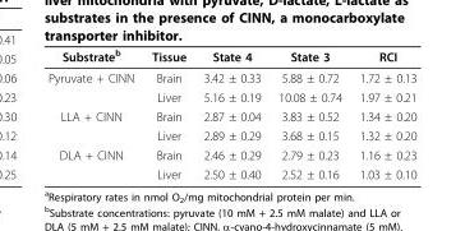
<table><thead><tr><td>Substrate<sup>b</sup></td><td>Tissue</td><td>State 4</td><td>State 3</td><td>RCI</td></tr></thead><tbody><tr><td rowspan="2">Pyruvate + CINN</td><td>Brain</td><td>3.42 ± 0.33</td><td>5.88 ± 0.72</td><td>1.72 ± 0.13</td></tr><tr><td>Liver</td><td>5.16 ± 0.19</td><td>10.08 ± 0.74</td><td>1.97 ± 0.21</td></tr><tr><td rowspan="2">LLA + CINN</td><td>Brain</td><td>2.87 ± 0.04</td><td>3.83 ± 0.52</td><td>1.34 ± 0.20</td></tr><tr><td>Liver</td><td>2.89 ± 0.29</td><td>3.68 ± 0.15</td><td>1.32 ± 0.20</td></tr><tr><td rowspan="2">DLA + CINN</td><td>Brain</td><td>2.46 ± 0.29</td><td>2.79 ± 0.23</td><td>1.16 ± 0.23</td></tr><tr><td>Liver</td><td>2.50 ± 0.40</td><td>2.52 ± 0.16</td><td>1.03 ± 0.10</td></tr></tbody></table>